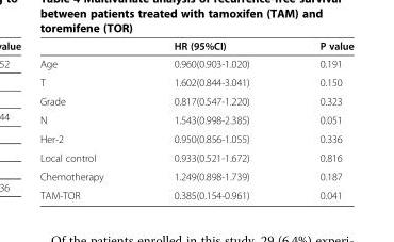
<table><thead><tr><td></td><td>HR (95%CI)</td><td>P value</td></tr></thead><tbody><tr><td>Age</td><td>0.960(0.903-1.020)</td><td>0.191</td></tr><tr><td>T</td><td>1.602(0.844-3.041)</td><td>0.150</td></tr><tr><td>Grade</td><td>0.817(0.547-1.220)</td><td>0.323</td></tr><tr><td>N</td><td>1.543(0.998-2.385)</td><td>0.051</td></tr><tr><td>Her-2</td><td>0.950(0.856-1.055)</td><td>0.336</td></tr><tr><td>Local control</td><td>0.933(0.521-1.672)</td><td>0.816</td></tr><tr><td>Chemotherapy</td><td>1.249(0.898-1.739)</td><td>0.187</td></tr><tr><td>TAM-TOR</td><td>0.385(0.154-0.961)</td><td>0.041</td></tr></tbody></table>